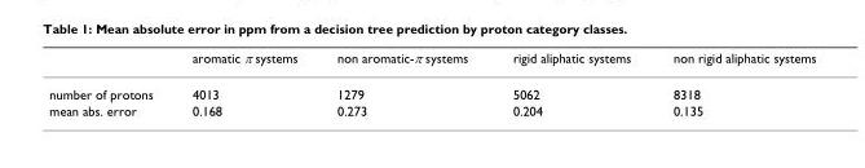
<table><thead><tr><td></td><td>aromatic π systems</td><td>non aromatic-π systems</td><td>rigid aliphatic systems</td><td>non rigid aliphatic systems</td></tr></thead><tbody><tr><td>number of protons</td><td>4013</td><td>1279</td><td>5062</td><td>8318</td></tr><tr><td>mean abs. error</td><td>0.168</td><td>0.273</td><td>0.204</td><td>0.135</td></tr></tbody></table>